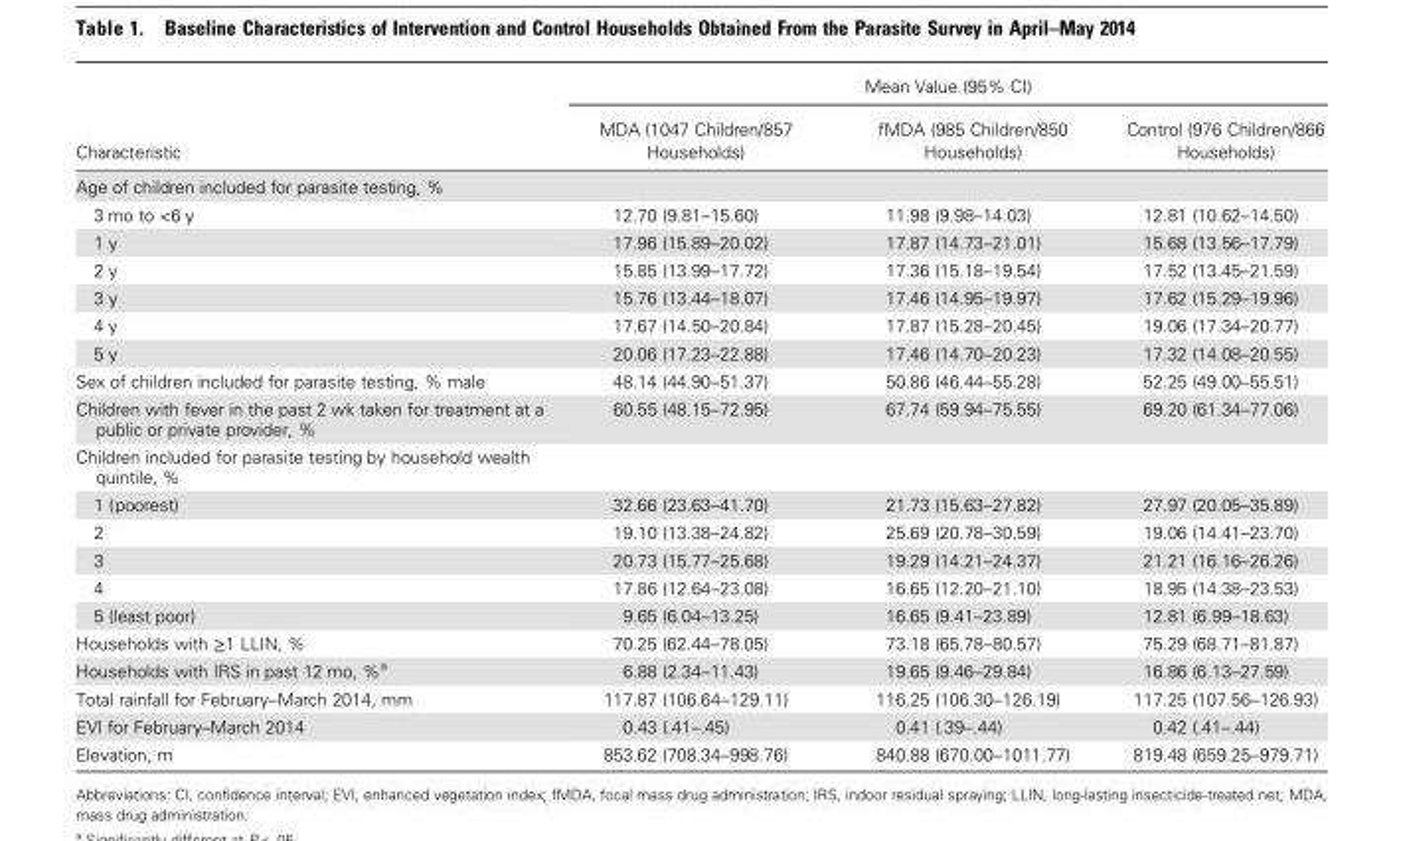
<table><thead><tr><td rowspan="2">Characteristic</td><td colspan="3">Mean Value (95% CI)</td></tr><tr><td>MDA (1047 Children/857 Households)</td><td>fMDA (985 Children/850 Households)</td><td>Control (976 Children/866 Households)</td></tr></thead><tbody><tr><td colspan="4">Age of children included for parasite testing, %</td></tr><tr><td>3 mo to &lt;6 y</td><td>12.70 (9.81–15.60)</td><td>11.98 (9.98–14.03)</td><td>12.81 (10.62–14.50)</td></tr><tr><td>1 y</td><td>17.96 (15.89–20.02)</td><td>17.87 (14.73–21.01)</td><td>15.68 (13.56–17.79)</td></tr><tr><td>2 y</td><td>15.85 (13.99–17.72)</td><td>17.36 (15.18–19.54)</td><td>17.52 (13.45–21.59)</td></tr><tr><td>3 y</td><td>15.76 (13.44–18.07)</td><td>17.46 (14.95–19.97)</td><td>17.62 (15.29–19.96)</td></tr><tr><td>4 y</td><td>17.67 (14.50–20.84)</td><td>17.87 (15.28–20.45)</td><td>19.06 (17.34–20.77)</td></tr><tr><td>5 y</td><td>20.06 (17.23–22.88)</td><td>17.46 (14.70–20.23)</td><td>17.32 (14.08–20.55)</td></tr><tr><td>Sex of children included for parasite testing, % male</td><td>48.14 (44.90–51.37)</td><td>50.86 (46.44–55.28)</td><td>52.25 (49.00–55.51)</td></tr><tr><td>Children with fever in the past 2 wk taken for treatment at a public or private provider, %</td><td>60.55 (48.15–72.95)</td><td>67.74 (59.94–75.55)</td><td>69.20 (61.34–77.06)</td></tr><tr><td colspan="4">Children included for parasite testing by household wealth quintile, %</td></tr><tr><td>1 (poorest)</td><td>32.66 (23.63–41.70)</td><td>21.73 (15.63–27.82)</td><td>27.97 (20.05–35.89)</td></tr><tr><td>2</td><td>19.10 (13.38–24.82)</td><td>25.69 (20.78–30.59)</td><td>19.06 (14.41–23.70)</td></tr><tr><td>3</td><td>20.73 (15.77–25.68)</td><td>19.29 (14.21–24.37)</td><td>21.21 (16.16–26.26)</td></tr><tr><td>4</td><td>17.86 (12.64–23.08)</td><td>16.65 (12.20–21.10)</td><td>18.95 (14.38–23.53)</td></tr><tr><td>5 (least poor)</td><td>9.65 (6.04–13.25)</td><td>16.65 (9.41–23.89)</td><td>12.81 (6.99–18.63)</td></tr><tr><td>Households with ≥1 LLIN, %</td><td>70.25 (62.44–78.05)</td><td>73.18 (65.78–80.57)</td><td>75.29 (68.71–81.87)</td></tr><tr><td>Households with IRS in past 12 mo, %<sup>a</sup></td><td>6.88 (2.34–11.43)</td><td>19.65 (9.46–29.84)</td><td>16.86 (6.13–27.59)</td></tr><tr><td>Total rainfall for February–March 2014, mm</td><td>117.87 (106.64–129.11)</td><td>116.25 (106.30–126.19)</td><td>117.25 (107.56–126.93)</td></tr><tr><td>EVI for February–March 2014</td><td>0.43 (.41–.45)</td><td>0.41 (.39–.44)</td><td>0.42 (.41–.44)</td></tr><tr><td>Elevation, m</td><td>853.62 (708.34–998.76)</td><td>840.88 (670.00–1011.77)</td><td>819.48 (659.25–979.71)</td></tr></tbody></table>